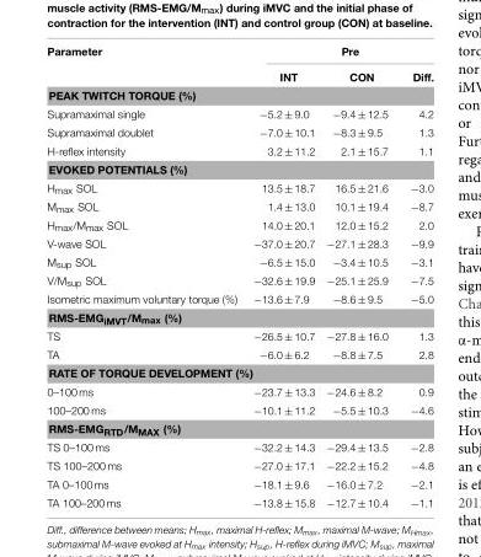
<table><thead><tr><td rowspan="2">Parameter</td><td colspan="3">Pre</td></tr><tr><td>INT</td><td>CON</td><td>Diff.</td></tr></thead><tbody><tr><td colspan="4">PEAK TWITCH TORQUE (%)</td></tr><tr><td>Supramaximal single</td><td>−5.2 ± 9.0</td><td>−9.4 ± 12.5</td><td>4.2</td></tr><tr><td>Supramaximal doublet</td><td>−7.0 ± 10.1</td><td>−8.3 ± 9.5</td><td>1.3</td></tr><tr><td>H-reflex intensity</td><td>3.2 ± 11.2</td><td>2.1 ± 15.7</td><td>1.1</td></tr><tr><td colspan="4">EVOKED POTENTIALS (%)</td></tr><tr><td>H<sub>max</sub> SOL</td><td>13.5 ± 18.7</td><td>16.5 ± 21.6</td><td>−3.0</td></tr><tr><td>M<sub>max</sub> SOL</td><td>1.4 ± 13.0</td><td>10.1 ± 19.4</td><td>−8.7</td></tr><tr><td>H<sub>max</sub>/M<sub>max</sub> SOL</td><td>14.0 ± 20.1</td><td>12.0 ± 15.2</td><td>2.0</td></tr><tr><td>V-wave SOL</td><td>−37.0 ± 20.7</td><td>−27.1 ± 28.3</td><td>−9.9</td></tr><tr><td>M<sub>sup</sub> SOL</td><td>−6.5 ± 15.0</td><td>−3.4 ± 10.5</td><td>−3.1</td></tr><tr><td>V/M<sub>sup</sub> SOL</td><td>−32.6 ± 19.9</td><td>−25.1 ± 25.9</td><td>−7.5</td></tr><tr><td>Isometric maximum voluntary torque (%)</td><td>−13.6 ± 7.9</td><td>−8.6 ± 9.5</td><td>−5.0</td></tr><tr><td colspan="4">RMS-EMG<sub>iMVT</sub>/M<sub>max</sub> (%)</td></tr><tr><td>TS</td><td>−26.5 ± 10.7</td><td>−27.8 ± 16.0</td><td>1.3</td></tr><tr><td>TA</td><td>−6.0 ± 6.2</td><td>−8.8 ± 7.5</td><td>2.8</td></tr><tr><td colspan="4">RATE OF TORQUE DEVELOPMENT (%)</td></tr><tr><td>0–100 ms</td><td>−23.7 ± 13.3</td><td>−24.6 ± 8.2</td><td>0.9</td></tr><tr><td>100–200 ms</td><td>−10.1 ± 11.2</td><td>−5.5 ± 10.3</td><td>−4.6</td></tr><tr><td colspan="4">RMS-EMG<sub>RTD</sub>/M<sub>MAX</sub> (%)</td></tr><tr><td>TS 0–100 ms</td><td>−32.2 ± 14.3</td><td>−29.4 ± 13.5</td><td>−2.8</td></tr><tr><td>TS 100–200 ms</td><td>−27.0 ± 17.1</td><td>−22.2 ± 15.2</td><td>−4.8</td></tr><tr><td>TA 0–100 ms</td><td>−18.1 ± 9.6</td><td>−16.0 ± 7.2</td><td>−2.1</td></tr><tr><td>TA 100–200 ms</td><td>−13.8 ± 15.8</td><td>−12.7 ± 10.4</td><td>−1.1</td></tr></tbody></table>